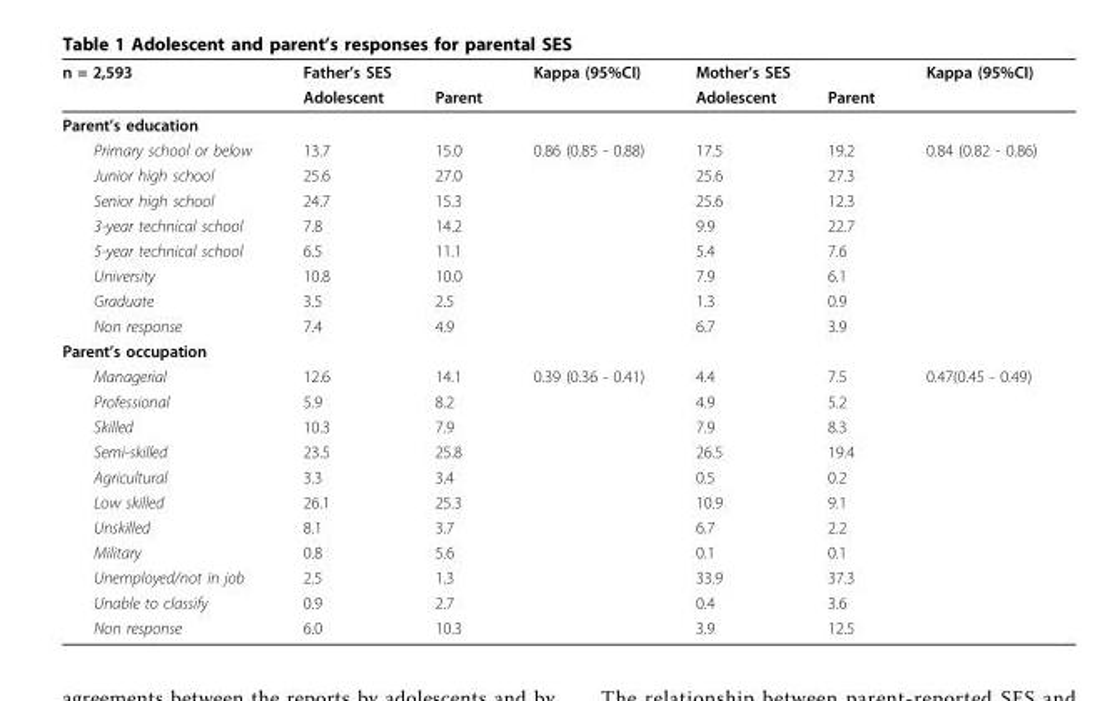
<table><thead><tr><td rowspan="2">n = 2,593</td><td colspan="2">Father’s SES</td><td rowspan="2">Kappa (95%CI)</td><td colspan="2">Mother’s SES</td><td rowspan="2">Kappa (95%CI)</td></tr><tr><td>Adolescent</td><td>Parent</td><td>Adolescent</td><td>Parent</td></tr></thead><tbody><tr><td colspan="7">Parent’s education</td></tr><tr><td>Primary school or below</td><td>13.7</td><td>15.0</td><td>0.86 (0.85 - 0.88)</td><td>17.5</td><td>19.2</td><td>0.84 (0.82 - 0.86)</td></tr><tr><td>Junior high school</td><td>25.6</td><td>27.0</td><td></td><td>25.6</td><td>27.3</td><td></td></tr><tr><td>Senior high school</td><td>24.7</td><td>15.3</td><td></td><td>25.6</td><td>12.3</td><td></td></tr><tr><td>3-year technical school</td><td>7.8</td><td>14.2</td><td></td><td>9.9</td><td>22.7</td><td></td></tr><tr><td>5-year technical school</td><td>6.5</td><td>11.1</td><td></td><td>5.4</td><td>7.6</td><td></td></tr><tr><td>University</td><td>10.8</td><td>10.0</td><td></td><td>7.9</td><td>6.1</td><td></td></tr><tr><td>Graduate</td><td>3.5</td><td>2.5</td><td></td><td>1.3</td><td>0.9</td><td></td></tr><tr><td>Non response</td><td>7.4</td><td>4.9</td><td></td><td>6.7</td><td>3.9</td><td></td></tr><tr><td colspan="7">Parent’s occupation</td></tr><tr><td>Managerial</td><td>12.6</td><td>14.1</td><td>0.39 (0.36 - 0.41)</td><td>4.4</td><td>7.5</td><td>0.47(0.45 - 0.49)</td></tr><tr><td>Professional</td><td>5.9</td><td>8.2</td><td></td><td>4.9</td><td>5.2</td><td></td></tr><tr><td>Skilled</td><td>10.3</td><td>7.9</td><td></td><td>7.9</td><td>8.3</td><td></td></tr><tr><td>Semi-skilled</td><td>23.5</td><td>25.8</td><td></td><td>26.5</td><td>19.4</td><td></td></tr><tr><td>Agricultural</td><td>3.3</td><td>3.4</td><td></td><td>0.5</td><td>0.2</td><td></td></tr><tr><td>Low skilled</td><td>26.1</td><td>25.3</td><td></td><td>10.9</td><td>9.1</td><td></td></tr><tr><td>Unskilled</td><td>8.1</td><td>3.7</td><td></td><td>6.7</td><td>2.2</td><td></td></tr><tr><td>Military</td><td>0.8</td><td>5.6</td><td></td><td>0.1</td><td>0.1</td><td></td></tr><tr><td>Unemployed/not in job</td><td>2.5</td><td>1.3</td><td></td><td>33.9</td><td>37.3</td><td></td></tr><tr><td>Unable to classify</td><td>0.9</td><td>2.7</td><td></td><td>0.4</td><td>3.6</td><td></td></tr><tr><td>Non response</td><td>6.0</td><td>10.3</td><td></td><td>3.9</td><td>12.5</td><td></td></tr></tbody></table>